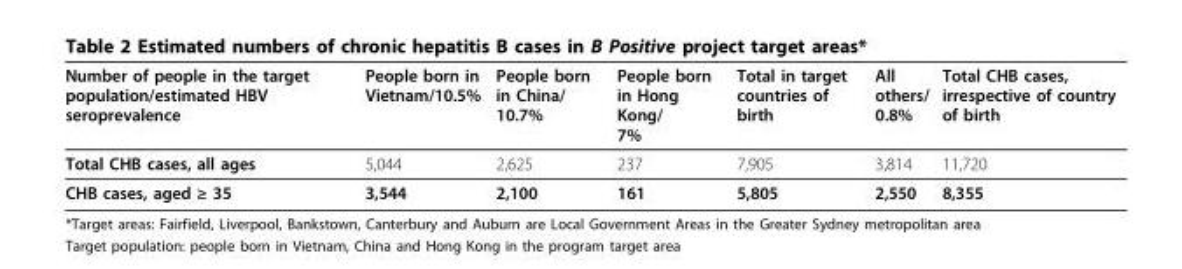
<table><thead><tr><td>Number of people in the target population/estimated HBV seroprevalence</td><td>People born in Vietnam/10.5%</td><td>People born in China/ 10.7%</td><td>People born in Hong Kong/ 7%</td><td>Total in target countries of birth</td><td>All others/ 0.8%</td><td>Total CHB cases, irrespective of country of birth</td></tr></thead><tbody><tr><td>Total CHB cases, all ages</td><td>5,044</td><td>2,625</td><td>237</td><td>7,905</td><td>3,814</td><td>11,720</td></tr><tr><td>CHB cases, aged ≥ 35</td><td>3,544</td><td>2,100</td><td>161</td><td>5,805</td><td>2,550</td><td>8,355</td></tr></tbody></table>